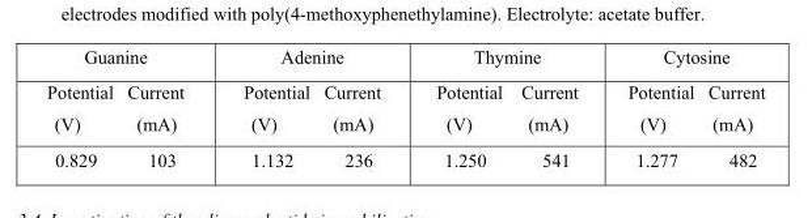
<table><thead><tr><td colspan="2">Guanine</td><td colspan="2">Adenine</td><td colspan="2">Thymine</td><td colspan="2">Cytosine</td></tr><tr><td>Potential (V)</td><td>Current (mA)</td><td>Potential (V)</td><td>Current (mA)</td><td>Potential (V)</td><td>Current (mA)</td><td>Potential (V)</td><td>Current (mA)</td></tr></thead><tbody><tr><td>0.829</td><td>103</td><td>1.132</td><td>236</td><td>1.250</td><td>541</td><td>1.277</td><td>482</td></tr></tbody></table>